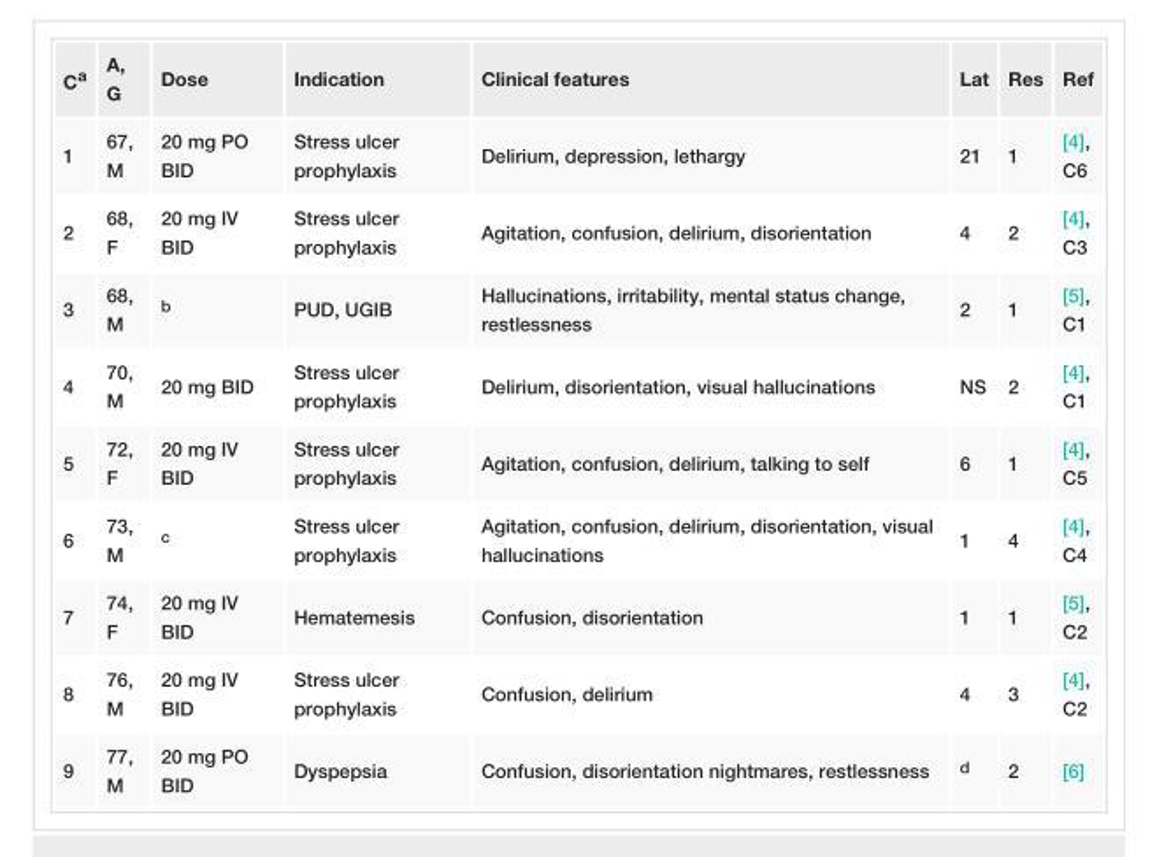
<table><tbody><tr><td>C<sup>a</sup></td><td>A, G</td><td>Dose</td><td>Indication</td><td>Clinical features</td><td>Lat</td><td>Res</td><td>Ref</td></tr><tr><td>1</td><td>67, M</td><td>20 mg PO BID</td><td>Stress ulcer prophylaxis</td><td>Delirium, depression, lethargy</td><td>21</td><td>1</td><td>[4], C6</td></tr><tr><td>2</td><td>68, F</td><td>20 mg IV BID</td><td>Stress ulcer prophylaxis</td><td>Agitation, confusion, delirium, disorientation</td><td>4</td><td>2</td><td>[4], C3</td></tr><tr><td>3</td><td>68, M</td><td><sup>b</sup></td><td>PUD, UGIB</td><td>Hallucinations, irritability, mental status change, restlessness</td><td>2</td><td>1</td><td>[5], C1</td></tr><tr><td>4</td><td>70, M</td><td>20 mg BID</td><td>Stress ulcer prophylaxis</td><td>Delirium, disorientation, visual hallucinations</td><td>NS</td><td>2</td><td>[4], C1</td></tr><tr><td>5</td><td>72, F</td><td>20 mg IV BID</td><td>Stress ulcer prophylaxis</td><td>Agitation, confusion, delirium, talking to self</td><td>6</td><td>1</td><td>[4], C5</td></tr><tr><td>6</td><td>73, M</td><td><sup>c</sup></td><td>Stress ulcer prophylaxis</td><td>Agitation, confusion, delirium, disorientation, visual hallucinations</td><td>1</td><td>4</td><td>[4], C4</td></tr><tr><td>7</td><td>74, F</td><td>20 mg IV BID</td><td>Hematemesis</td><td>Confusion, disorientation</td><td>1</td><td>1</td><td>[5], C2</td></tr><tr><td>8</td><td>76, M</td><td>20 mg IV BID</td><td>Stress ulcer prophylaxis</td><td>Confusion, delirium</td><td>4</td><td>3</td><td>[4], C2</td></tr><tr><td>9</td><td>77, M</td><td>20 mg PO BID</td><td>Dyspepsia</td><td>Confusion, disorientation nightmares, restlessness</td><td><sup>d</sup></td><td>2</td><td>[6]</td></tr></tbody></table>